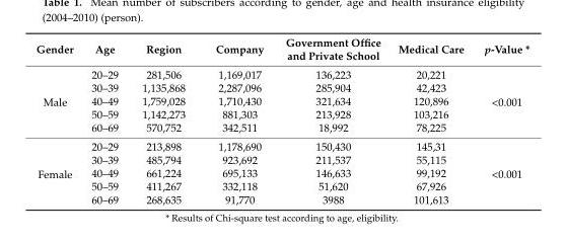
<table><thead><tr><td>Gender</td><td>Age</td><td>Region</td><td>Company</td><td>Government Office and Private School</td><td>Medical Care</td><td>p-Value *</td></tr></thead><tbody><tr><td rowspan="5">Male</td><td>20–29</td><td>281,506</td><td>1,169,017</td><td>136,223</td><td>20,221</td><td rowspan="5">&lt;0.001</td></tr><tr><td>30–39</td><td>1,135,868</td><td>2,287,096</td><td>285,904</td><td>42,423</td></tr><tr><td>40–49</td><td>1,759,028</td><td>1,710,430</td><td>321,634</td><td>120,896</td></tr><tr><td>50–59</td><td>1,142,273</td><td>881,303</td><td>213,928</td><td>103,216</td></tr><tr><td>60–69</td><td>570,752</td><td>342,511</td><td>18,992</td><td>78,225</td></tr><tr><td rowspan="5">Female</td><td>20–29</td><td>213,898</td><td>1,178,690</td><td>150,430</td><td>145,31</td><td rowspan="5">&lt;0.001</td></tr><tr><td>30–39</td><td>485,794</td><td>923,692</td><td>211,537</td><td>55,115</td></tr><tr><td>40–49</td><td>661,224</td><td>695,133</td><td>146,633</td><td>99,192</td></tr><tr><td>50–59</td><td>411,267</td><td>332,118</td><td>51,620</td><td>67,926</td></tr><tr><td>60–69</td><td>268,635</td><td>91,770</td><td>3988</td><td>101,613</td></tr></tbody></table>